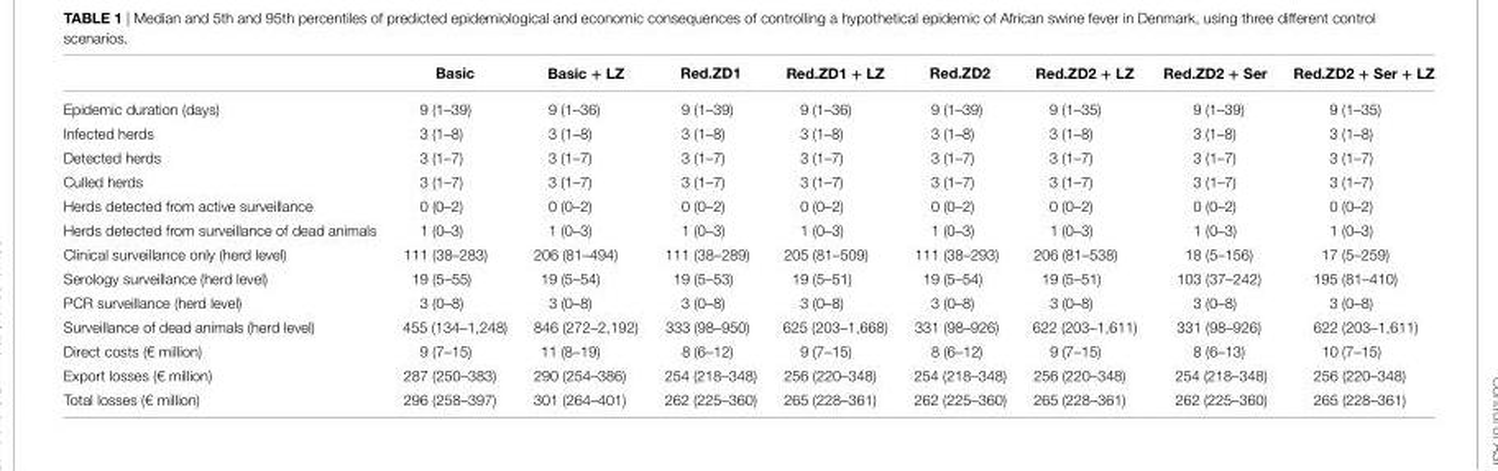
<table><thead><tr><td></td><td>Basic</td><td>Basic + lZ</td><td>red.ZD1</td><td>red.ZD1 + lZ</td><td>red.ZD2</td><td>red.ZD2 + lZ</td><td>red.ZD2 + ser</td><td>red.ZD2 + ser + lZ</td></tr></thead><tbody><tr><td>Epidemic duration (days)</td><td>9 (1–39)</td><td>9 (1–36)</td><td>9 (1–39)</td><td>9 (1–36)</td><td>9 (1–39)</td><td>9 (1–35)</td><td>9 (1–39)</td><td>9 (1–35)</td></tr><tr><td>Infected herds</td><td>3 (1–8)</td><td>3 (1–8)</td><td>3 (1–8)</td><td>3 (1–8)</td><td>3 (1–8)</td><td>3 (1–8)</td><td>3 (1–8)</td><td>3 (1–8)</td></tr><tr><td>Detected herds</td><td>3 (1–7)</td><td>3 (1–7)</td><td>3 (1–7)</td><td>3 (1–7)</td><td>3 (1–7)</td><td>3 (1–7)</td><td>3 (1–7)</td><td>3 (1–7)</td></tr><tr><td>Culled herds</td><td>3 (1–7)</td><td>3 (1–7)</td><td>3 (1–7)</td><td>3 (1–7)</td><td>3 (1–7)</td><td>3 (1–7)</td><td>3 (1–7)</td><td>3 (1–7)</td></tr><tr><td>Herds detected from active surveillance</td><td>0 (0–2)</td><td>0 (0–2)</td><td>0 (0–2)</td><td>0 (0–2)</td><td>0 (0–2)</td><td>0 (0–2)</td><td>0 (0–2)</td><td>0 (0–2)</td></tr><tr><td>Herds detected from surveillance of dead animals</td><td>1 (0–3)</td><td>1 (0–3)</td><td>1 (0–3)</td><td>1 (0–3)</td><td>1 (0–3)</td><td>1 (0–3)</td><td>1 (0–3)</td><td>1 (0–3)</td></tr><tr><td>Clinical surveillance only (herd level)</td><td>111 (38–283)</td><td>206 (81–494)</td><td>111 (38–289)</td><td>205 (81–509)</td><td>111 (38–293)</td><td>206 (81–538)</td><td>18 (5–156)</td><td>17 (5–259)</td></tr><tr><td>Serology surveillance (herd level)</td><td>19 (5–55)</td><td>19 (5–54)</td><td>19 (5–53)</td><td>19 (5–51)</td><td>19 (5–54)</td><td>19 (5–51)</td><td>103 (37–242)</td><td>195 (81–410)</td></tr><tr><td>PCR surveillance (herd level)</td><td>3 (0–8)</td><td>3 (0–8)</td><td>3 (0–8)</td><td>3 (0–8)</td><td>3 (0–8)</td><td>3 (0–8)</td><td>3 (0–8)</td><td>3 (0–8)</td></tr><tr><td>Surveillance of dead animals (herd level)</td><td>455 (134–1,248)</td><td>846 (272–2,192)</td><td>333 (98–950)</td><td>625 (203–1,668)</td><td>331 (98–926)</td><td>622 (203–1,611)</td><td>331 (98–926)</td><td>622 (203–1,611)</td></tr><tr><td>Direct costs (€ million)</td><td>9 (7–15)</td><td>11 (8–19)</td><td>8 (6–12)</td><td>9 (7–15)</td><td>8 (6–12)</td><td>9 (7–15)</td><td>8 (6–13)</td><td>10 (7–15)</td></tr><tr><td>Export losses (€ million)</td><td>287 (250–383)</td><td>290 (254–386)</td><td>254 (218–348)</td><td>256 (220–348)</td><td>254 (218–348)</td><td>256 (220–348)</td><td>254 (218–348)</td><td>256 (220–348)</td></tr><tr><td>Total losses (€ million)</td><td>296 (258–397)</td><td>301 (264–401)</td><td>262 (225–360)</td><td>265 (228–361)</td><td>262 (225–360)</td><td>265 (228–361)</td><td>262 (225–360)</td><td>265 (228–361)</td></tr></tbody></table>